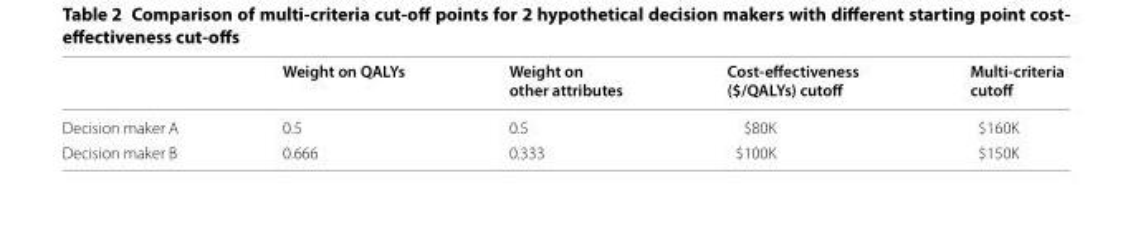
<table><thead><tr><td></td><td>Weight on QALYs</td><td>Weight on other attributes</td><td>Cost-effectiveness ($/QALYs) cutoff</td><td>Multi-criteria cutoff</td></tr></thead><tbody><tr><td>Decision maker A</td><td>0.5</td><td>0.5</td><td>$80K</td><td>$160K</td></tr><tr><td>Decision maker B</td><td>0.666</td><td>0.333</td><td>$100K</td><td>$150K</td></tr></tbody></table>